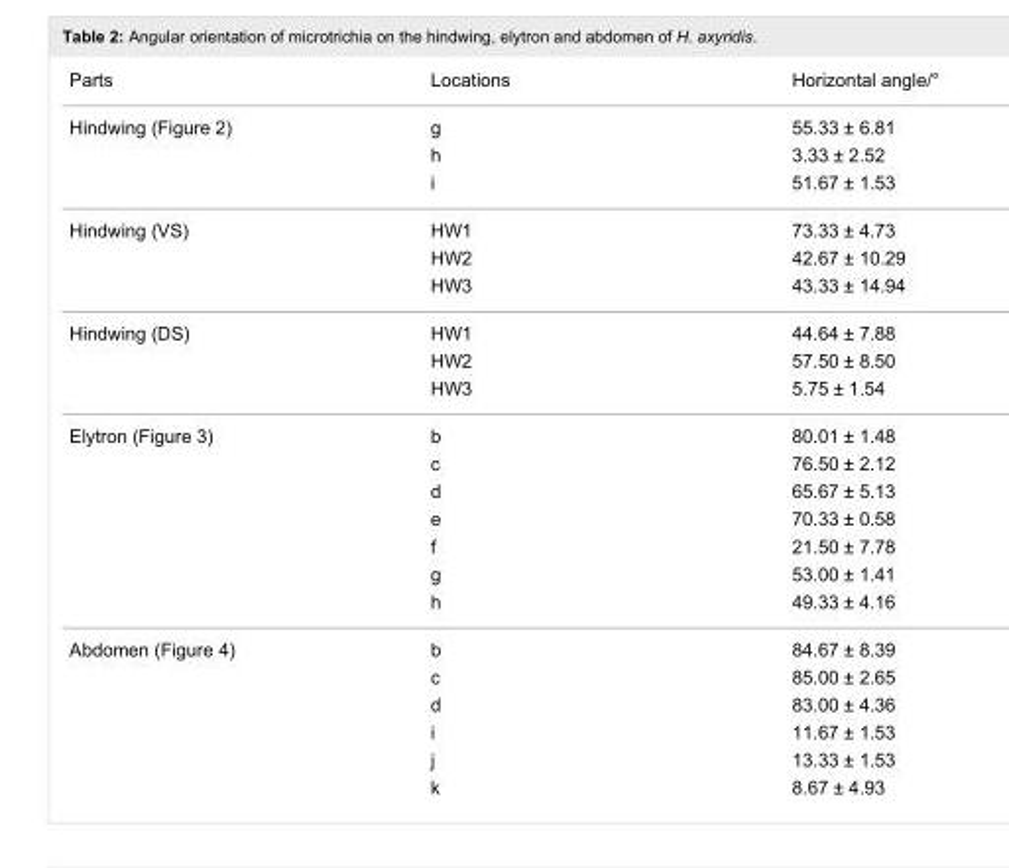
<table><tbody><tr><td>Parts</td><td>Locations</td><td>Horizontal angle/°</td></tr><tr><td rowspan="3">Hindwing (Figure 2)</td><td>g</td><td>55.33 ± 6.81</td></tr><tr><td>h</td><td>3.33 ± 2.52</td></tr><tr><td>i</td><td>51.67 ± 1.53</td></tr><tr><td rowspan="3">Hindwing (VS)</td><td>HW1</td><td>73.33 ± 4.73</td></tr><tr><td>HW2</td><td>42.67 ± 10.29</td></tr><tr><td>HW3</td><td>43.33 ± 14.94</td></tr><tr><td rowspan="3">Hindwing (DS)</td><td>HW1</td><td>44.64 ± 7.88</td></tr><tr><td>HW2</td><td>57.50 ± 8.50</td></tr><tr><td>HW3</td><td>5.75 ± 1.54</td></tr><tr><td rowspan="7">Elytron (Figure 3)</td><td>b</td><td>80.01 ± 1.48</td></tr><tr><td>c</td><td>76.50 ± 2.12</td></tr><tr><td>d</td><td>65.67 ± 5.13</td></tr><tr><td>e</td><td>70.33 ± 0.58</td></tr><tr><td>f</td><td>21.50 ± 7.78</td></tr><tr><td>g</td><td>53.00 ± 1.41</td></tr><tr><td>h</td><td>49.33 ± 4.16</td></tr><tr><td rowspan="6">Abdomen (Figure 4)</td><td>b</td><td>84.67 ± 8.39</td></tr><tr><td>c</td><td>85.00 ± 2.65</td></tr><tr><td>d</td><td>83.00 ± 4.36</td></tr><tr><td>i</td><td>11.67 ± 1.53</td></tr><tr><td>j</td><td>13.33 ± 1.53</td></tr><tr><td>k</td><td>8.67 ± 4.93</td></tr></tbody></table>